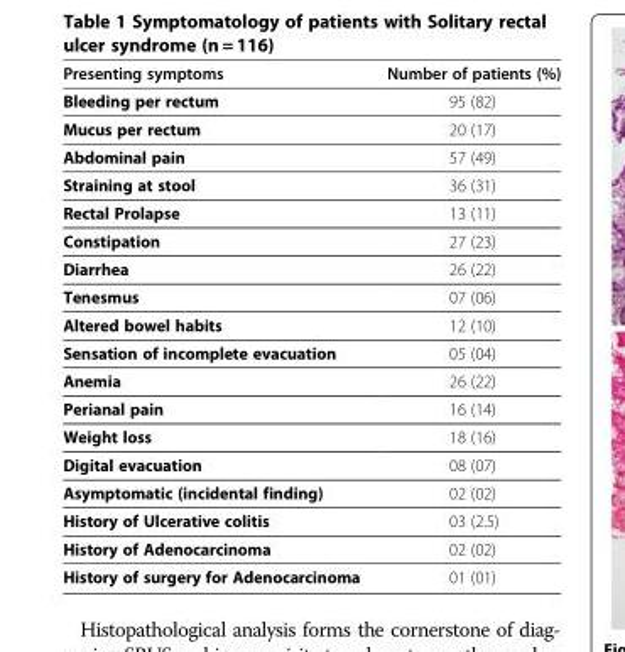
<table><thead><tr><td>Presenting symptoms</td><td>Number of patients (%)</td></tr></thead><tbody><tr><td>Bleeding per rectum</td><td>95 (82)</td></tr><tr><td>Mucus per rectum</td><td>20 (17)</td></tr><tr><td>Abdominal pain</td><td>57 (49)</td></tr><tr><td>Straining at stool</td><td>36 (31)</td></tr><tr><td>Rectal Prolapse</td><td>13 (11)</td></tr><tr><td>Constipation</td><td>27 (23)</td></tr><tr><td>Diarrhea</td><td>26 (22)</td></tr><tr><td>Tenesmus</td><td>07 (06)</td></tr><tr><td>Altered bowel habits</td><td>12 (10)</td></tr><tr><td>Sensation of incomplete evacuation</td><td>05 (04)</td></tr><tr><td>Anemia</td><td>26 (22)</td></tr><tr><td>Perianal pain</td><td>16 (14)</td></tr><tr><td>Weight loss</td><td>18 (16)</td></tr><tr><td>Digital evacuation</td><td>08 (07)</td></tr><tr><td>Asymptomatic (incidental finding)</td><td>02 (02)</td></tr><tr><td>History of Ulcerative colitis</td><td>03 (2.5)</td></tr><tr><td>History of Adenocarcinoma</td><td>02 (02)</td></tr><tr><td>History of surgery for Adenocarcinoma</td><td>01 (01)</td></tr></tbody></table>